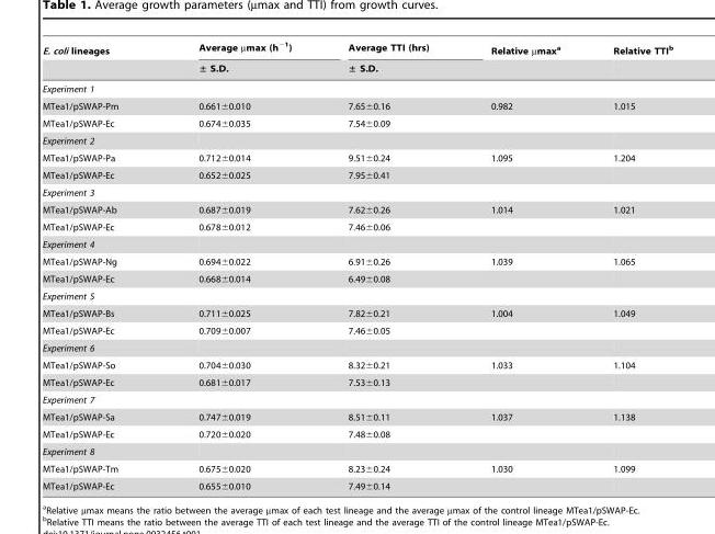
<table><thead><tr><td rowspan="2">E. coli lineages</td><td rowspan="2">Average µmax (h<sup>−1</sup>) ± S.D.</td><td rowspan="2">Average TTI (hrs) ± S.D.</td><td rowspan="2">Relative µmax<sup>a</sup></td><td rowspan="2">Relative TTI<sup>b</sup></td></tr><tr></tr></thead><tbody><tr><td colspan="5">Experiment 1</td></tr><tr><td>MTea1/pSWAP-Pm</td><td>0.661±0.010</td><td>7.65±0.16</td><td>0.982</td><td>1.015</td></tr><tr><td>MTea1/pSWAP-Ec</td><td>0.674±0.035</td><td>7.54±0.09</td><td></td><td></td></tr><tr><td colspan="5">Experiment 2</td></tr><tr><td>MTea1/pSWAP-Pa</td><td>0.712±0.014</td><td>9.51±0.24</td><td>1.095</td><td>1.204</td></tr><tr><td>MTea1/pSWAP-Ec</td><td>0.652±0.025</td><td>7.95±0.41</td><td></td><td></td></tr><tr><td colspan="5">Experiment 3</td></tr><tr><td>MTea1/pSWAP-Ab</td><td>0.687±0.019</td><td>7.62±0.26</td><td>1.014</td><td>1.021</td></tr><tr><td>MTea1/pSWAP-Ec</td><td>0.678±0.012</td><td>7.46±0.06</td><td></td><td></td></tr><tr><td colspan="5">Experiment 4</td></tr><tr><td>MTea1/pSWAP-Ng</td><td>0.694±0.022</td><td>6.91±0.26</td><td>1.039</td><td>1.065</td></tr><tr><td>MTea1/pSWAP-Ec</td><td>0.668±0.014</td><td>6.49±0.08</td><td></td><td></td></tr><tr><td colspan="5">Experiment 5</td></tr><tr><td>MTea1/pSWAP-Bs</td><td>0.711±0.025</td><td>7.82±0.21</td><td>1.004</td><td>1.049</td></tr><tr><td>MTea1/pSWAP-Ec</td><td>0.709±0.007</td><td>7.46±0.05</td><td></td><td></td></tr><tr><td colspan="5">Experiment 6</td></tr><tr><td>MTea1/pSWAP-So</td><td>0.704±0.030</td><td>8.32±0.21</td><td>1.033</td><td>1.104</td></tr><tr><td>MTea1/pSWAP-Ec</td><td>0.681±0.017</td><td>7.53±0.13</td><td></td><td></td></tr><tr><td colspan="5">Experiment 7</td></tr><tr><td>MTea1/pSWAP-Sa</td><td>0.747±0.019</td><td>8.51±0.11</td><td>1.037</td><td>1.138</td></tr><tr><td>MTea1/pSWAP-Ec</td><td>0.720±0.020</td><td>7.48±0.08</td><td></td><td></td></tr><tr><td colspan="5">Experiment 8</td></tr><tr><td>MTea1/pSWAP-Tm</td><td>0.675±0.020</td><td>8.23±0.24</td><td>1.030</td><td>1.099</td></tr><tr><td>MTea1/pSWAP-Ec</td><td>0.655±0.010</td><td>7.49±0.14</td><td></td><td></td></tr></tbody></table>